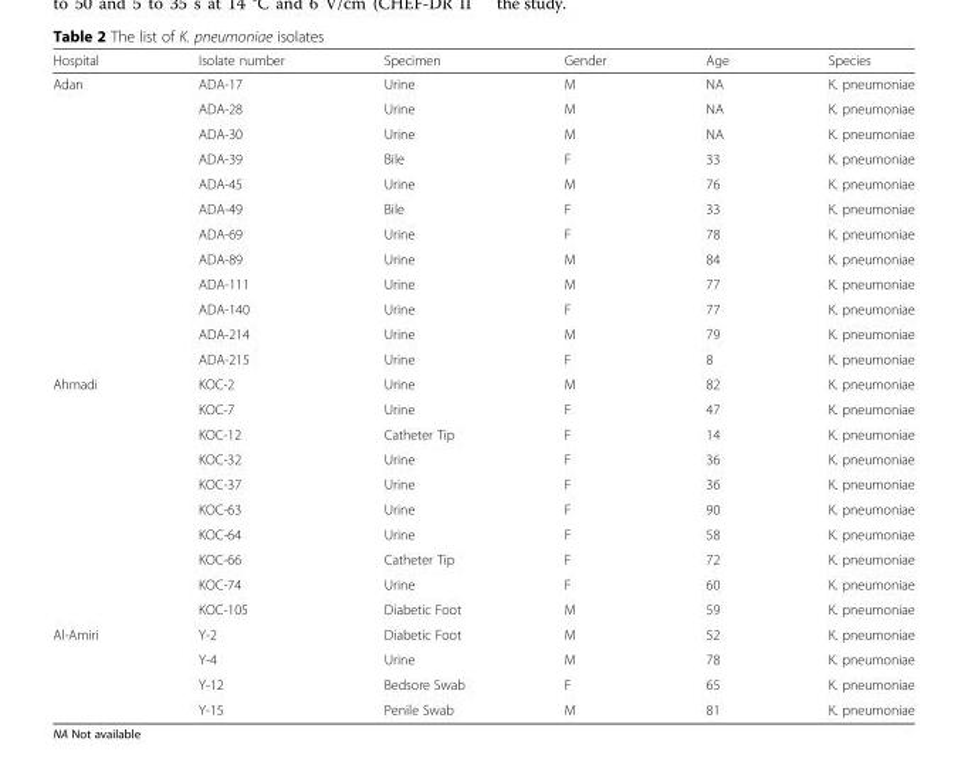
<table><thead><tr><td>Hospital</td><td>Isolate number</td><td>Specimen</td><td>Gender</td><td>Age</td><td>Species</td></tr></thead><tbody><tr><td rowspan="12">Adan</td><td>ADA-17</td><td>Urine</td><td>M</td><td>NA</td><td>K. pneumoniae</td></tr><tr><td>ADA-28</td><td>Urine</td><td>M</td><td>NA</td><td>K. pneumoniae</td></tr><tr><td>ADA-30</td><td>Urine</td><td>M</td><td>NA</td><td>K. pneumoniae</td></tr><tr><td>ADA-39</td><td>Bile</td><td>F</td><td>33</td><td>K. pneumoniae</td></tr><tr><td>ADA-45</td><td>Urine</td><td>M</td><td>76</td><td>K. pneumoniae</td></tr><tr><td>ADA-49</td><td>Bile</td><td>F</td><td>33</td><td>K. pneumoniae</td></tr><tr><td>ADA-69</td><td>Urine</td><td>F</td><td>78</td><td>K. pneumoniae</td></tr><tr><td>ADA-89</td><td>Urine</td><td>M</td><td>84</td><td>K. pneumoniae</td></tr><tr><td>ADA-111</td><td>Urine</td><td>M</td><td>77</td><td>K. pneumoniae</td></tr><tr><td>ADA-140</td><td>Urine</td><td>F</td><td>77</td><td>K. pneumoniae</td></tr><tr><td>ADA-214</td><td>Urine</td><td>M</td><td>79</td><td>K. pneumoniae</td></tr><tr><td>ADA-215</td><td>Urine</td><td>F</td><td>8</td><td>K. pneumoniae</td></tr><tr><td rowspan="10">Ahmadi</td><td>KOC-2</td><td>Urine</td><td>M</td><td>82</td><td>K. pneumoniae</td></tr><tr><td>KOC-7</td><td>Urine</td><td>F</td><td>47</td><td>K. pneumoniae</td></tr><tr><td>KOC-12</td><td>Catheter Tip</td><td>F</td><td>14</td><td>K. pneumoniae</td></tr><tr><td>KOC-32</td><td>Urine</td><td>F</td><td>36</td><td>K. pneumoniae</td></tr><tr><td>KOC-37</td><td>Urine</td><td>F</td><td>36</td><td>K. pneumoniae</td></tr><tr><td>KOC-63</td><td>Urine</td><td>F</td><td>90</td><td>K. pneumoniae</td></tr><tr><td>KOC-64</td><td>Urine</td><td>F</td><td>58</td><td>K. pneumoniae</td></tr><tr><td>KOC-66</td><td>Catheter Tip</td><td>F</td><td>72</td><td>K. pneumoniae</td></tr><tr><td>KOC-74</td><td>Urine</td><td>F</td><td>60</td><td>K. pneumoniae</td></tr><tr><td>KOC-105</td><td>Diabetic Foot</td><td>M</td><td>59</td><td>K. pneumoniae</td></tr><tr><td rowspan="4">Al-Amiri</td><td>Y-2</td><td>Diabetic Foot</td><td>M</td><td>52</td><td>K. pneumoniae</td></tr><tr><td>Y-4</td><td>Urine</td><td>M</td><td>78</td><td>K. pneumoniae</td></tr><tr><td>Y-12</td><td>Bedsore Swab</td><td>F</td><td>65</td><td>K. pneumoniae</td></tr><tr><td>Y-15</td><td>Penile Swab</td><td>M</td><td>81</td><td>K. pneumoniae</td></tr></tbody></table>